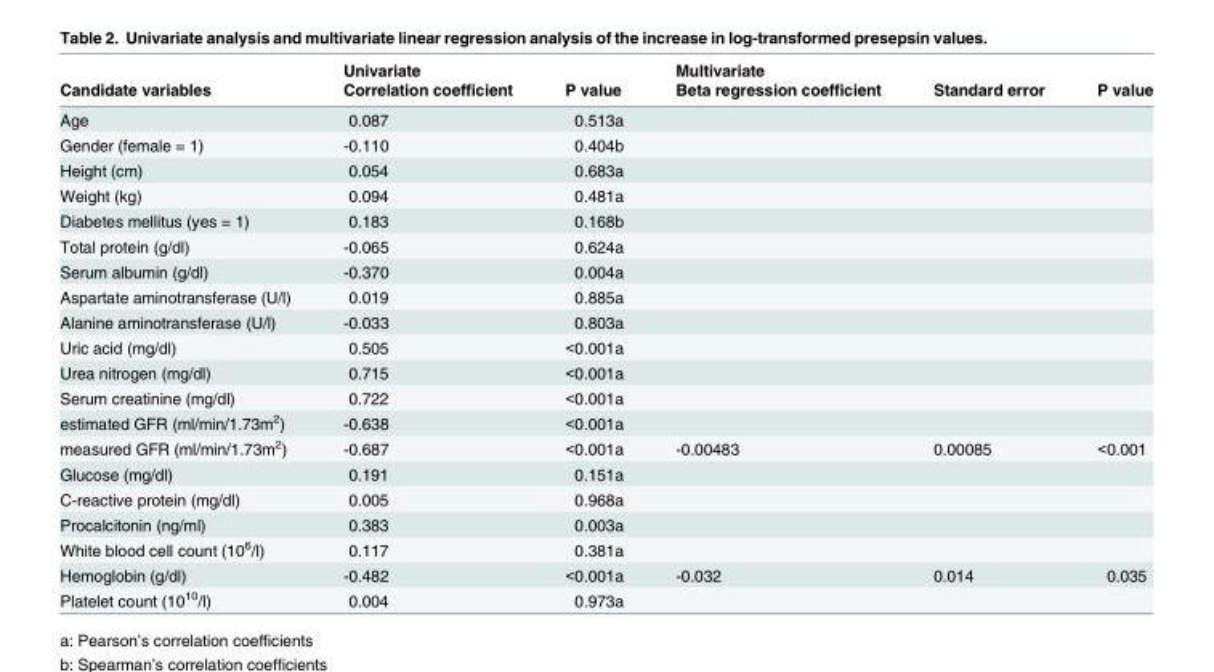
<table><thead><tr><td rowspan="2">Candidate variables</td><td rowspan="2">Univariate Correlation coefficient</td><td rowspan="2">P value</td><td rowspan="2">Multivariate Beta regression coefficient</td><td rowspan="2">Standard error</td><td rowspan="2">P value</td></tr><tr></tr></thead><tbody><tr><td>Age</td><td>0.087</td><td>0.513<sup>a</sup></td><td></td><td></td><td></td></tr><tr><td>Gender (female = 1)</td><td>-0.110</td><td>0.404<sup>b</sup></td><td></td><td></td><td></td></tr><tr><td>Height (cm)</td><td>0.054</td><td>0.683<sup>a</sup></td><td></td><td></td><td></td></tr><tr><td>Weight (kg)</td><td>0.094</td><td>0.481<sup>a</sup></td><td></td><td></td><td></td></tr><tr><td>Diabetes mellitus (yes = 1)</td><td>0.183</td><td>0.168<sup>b</sup></td><td></td><td></td><td></td></tr><tr><td>Total protein (g/dl)</td><td>-0.065</td><td>0.624<sup>a</sup></td><td></td><td></td><td></td></tr><tr><td>Serum albumin (g/dl)</td><td>-0.370</td><td>0.004<sup>a</sup></td><td></td><td></td><td></td></tr><tr><td>Aspartate aminotransferase (U/l)</td><td>0.019</td><td>0.885<sup>a</sup></td><td></td><td></td><td></td></tr><tr><td>Alanine aminotransferase (U/l)</td><td>-0.033</td><td>0.803<sup>a</sup></td><td></td><td></td><td></td></tr><tr><td>Uric acid (mg/dl)</td><td>0.505</td><td>&lt;0.001<sup>a</sup></td><td></td><td></td><td></td></tr><tr><td>Urea nitrogen (mg/dl)</td><td>0.715</td><td>&lt;0.001<sup>a</sup></td><td></td><td></td><td></td></tr><tr><td>Serum creatinine (mg/dl)</td><td>0.722</td><td>&lt;0.001<sup>a</sup></td><td></td><td></td><td></td></tr><tr><td>estimated GFR (ml/min/1.73m<sup>2</sup>)</td><td>-0.638</td><td>&lt;0.001<sup>a</sup></td><td></td><td></td><td></td></tr><tr><td>measured GFR (ml/min/1.73m<sup>2</sup>)</td><td>-0.687</td><td>&lt;0.001<sup>a</sup></td><td>-0.00483</td><td>0.00085</td><td>&lt;0.001</td></tr><tr><td>Glucose (mg/dl)</td><td>0.191</td><td>0.151<sup>a</sup></td><td></td><td></td><td></td></tr><tr><td>C-reactive protein (mg/dl)</td><td>0.005</td><td>0.968<sup>a</sup></td><td></td><td></td><td></td></tr><tr><td>Procalcitonin (ng/ml)</td><td>0.383</td><td>0.003<sup>a</sup></td><td></td><td></td><td></td></tr><tr><td>White blood cell count (10<sup>6</sup>/l)</td><td>0.117</td><td>0.381<sup>a</sup></td><td></td><td></td><td></td></tr><tr><td>Hemoglobin (g/dl)</td><td>-0.482</td><td>&lt;0.001<sup>a</sup></td><td>-0.032</td><td>0.014</td><td>0.035</td></tr><tr><td>Platelet count (10<sup>10</sup>/l)</td><td>0.004</td><td>0.973<sup>a</sup></td><td></td><td></td><td></td></tr></tbody></table>